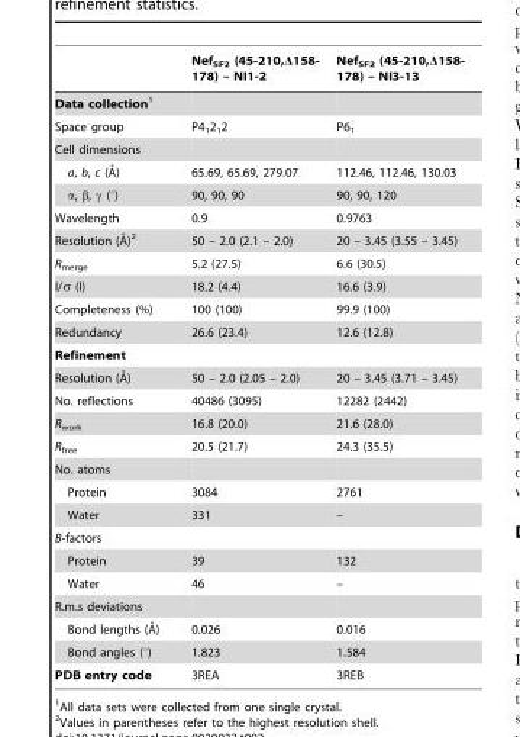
<table><thead><tr><td></td><td>Nef<sub>SF2</sub> (45-210,Δ158- 178) – NI1-2</td><td>Nef<sub>SF2</sub> (45-210,Δ158- 178) – NI3-13</td></tr></thead><tbody><tr><td colspan="3">Data collection1</td></tr><tr><td>Space group</td><td>P4<sub>1</sub>2<sub>1</sub>2</td><td>P6<sub>1</sub></td></tr><tr><td colspan="3">Cell dimensions</td></tr><tr><td>a, b, c (A˚)</td><td>65.69, 65.69, 279.07</td><td>112.46, 112.46, 130.03</td></tr><tr><td>α, β, γ (°)</td><td>90, 90, 90</td><td>90, 90, 120</td></tr><tr><td>Wavelength</td><td>0.9</td><td>0.9763</td></tr><tr><td>Resolution (A˚)2</td><td>50 – 2.0 (2.1 – 2.0)</td><td>20 – 3.45 (3.55 – 3.45)</td></tr><tr><td>R<sub>merge</sub></td><td>5.2 (27.5)</td><td>6.6 (30.5)</td></tr><tr><td>I/σ (I)</td><td>18.2 (4.4)</td><td>16.6 (3.9)</td></tr><tr><td>Completeness (%)</td><td>100 (100)</td><td>99.9 (100)</td></tr><tr><td>Redundancy</td><td>26.6 (23.4)</td><td>12.6 (12.8)</td></tr><tr><td colspan="3">Refinement</td></tr><tr><td>Resolution (A˚)</td><td>50 – 2.0 (2.05 – 2.0)</td><td>20 – 3.45 (3.71 – 3.45)</td></tr><tr><td>No. reflections</td><td>40486 (3095)</td><td>12282 (2442)</td></tr><tr><td>R<sub>work</sub></td><td>16.8 (20.0)</td><td>21.6 (28.0)</td></tr><tr><td>R<sub>free</sub></td><td>20.5 (21.7)</td><td>24.3 (35.5)</td></tr><tr><td colspan="3">No. atoms</td></tr><tr><td>Protein</td><td>3084</td><td>2761</td></tr><tr><td>Water</td><td>331</td><td>–</td></tr><tr><td colspan="3">B-factors</td></tr><tr><td>Protein</td><td>39</td><td>132</td></tr><tr><td>Water</td><td>46</td><td>–</td></tr><tr><td colspan="3">R.m.s deviations</td></tr><tr><td>Bond lengths (A˚)</td><td>0.026</td><td>0.016</td></tr><tr><td>Bond angles (°)</td><td>1.823</td><td>1.584</td></tr><tr><td>PDB entry code</td><td>3REA</td><td>3REB</td></tr></tbody></table>